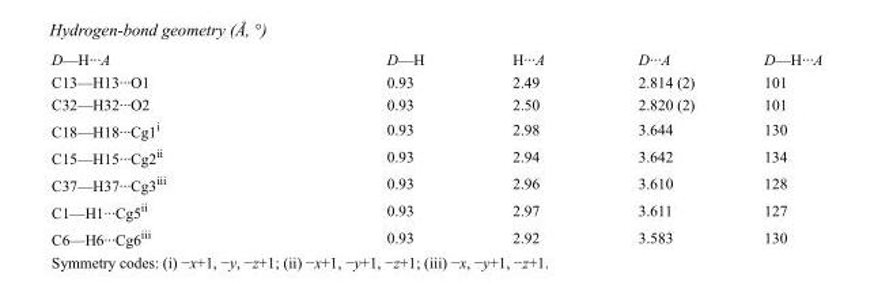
<table><tbody><tr><td>D—H···A</td><td>D—H</td><td>H···A</td><td>D···A</td><td>D—H···A</td></tr><tr><td>C13—H13···O1</td><td>0.93</td><td>2.49</td><td>2.814 (2)</td><td>101</td></tr><tr><td>C32—H32···O2</td><td>0.93</td><td>2.50</td><td>2.820 (2)</td><td>101</td></tr><tr><td>C18—H18···Cg1<sup>i</sup></td><td>0.93</td><td>2.98</td><td>3.644</td><td>130</td></tr><tr><td>C15—H15···Cg2<sup>ii</sup></td><td>0.93</td><td>2.94</td><td>3.642</td><td>134</td></tr><tr><td>C37—H37···Cg3<sup>iii</sup></td><td>0.93</td><td>2.96</td><td>3.610</td><td>128</td></tr><tr><td>C1—H1···Cg5<sup>ii</sup></td><td>0.93</td><td>2.97</td><td>3.611</td><td>127</td></tr><tr><td>C6—H6···Cg6<sup>iii</sup></td><td>0.93</td><td>2.92</td><td>3.583</td><td>130</td></tr></tbody></table>